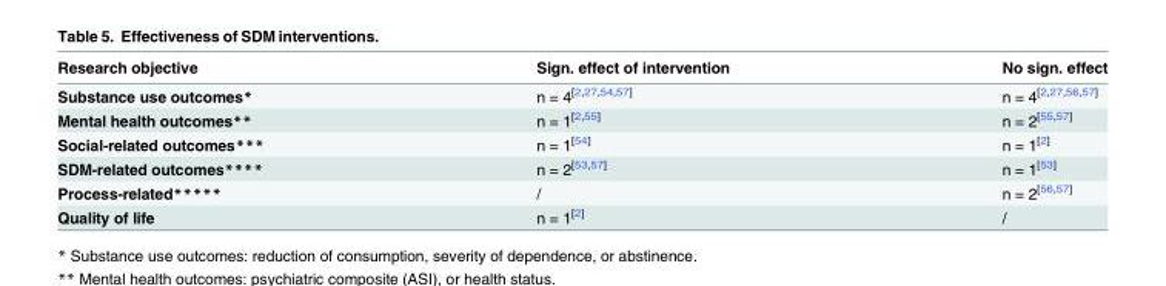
<table><thead><tr><td>Research objective</td><td>Sign. effect of intervention</td><td>No sign. effect</td></tr></thead><tbody><tr><td>Substance use outcomes*</td><td>n = 4<sup>[2,27,54,57]</sup></td><td>n = 4<sup>[2,27,56,57]</sup></td></tr><tr><td>Mental health outcomes**</td><td>n = 1<sup>[2,55]</sup></td><td>n = 2<sup>[55,57]</sup></td></tr><tr><td>Social-related outcomes***</td><td>n = 1<sup>[54]</sup></td><td>n = 1<sup>[2]</sup></td></tr><tr><td>SDM-related outcomes****</td><td>n = 2<sup>[53,57]</sup></td><td>n = 1<sup>[53]</sup></td></tr><tr><td>Process-related*****</td><td>/</td><td>n = 2<sup>[56,57]</sup></td></tr><tr><td>Quality of life</td><td>n = 1<sup>[2]</sup></td><td>/</td></tr></tbody></table>